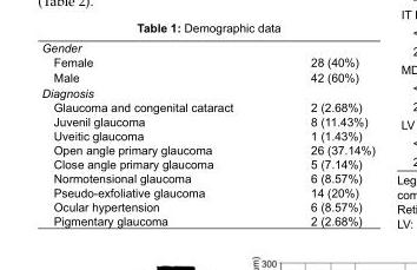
<table><tbody><tr><td colspan="2">Gender</td></tr><tr><td>Female</td><td>28 (40%)</td></tr><tr><td>Male</td><td>42 (60%)</td></tr><tr><td colspan="2">Diagnosis</td></tr><tr><td>Glaucoma and congenital cataract</td><td>2 (2.68%)</td></tr><tr><td>Juvenil glaucoma</td><td>8 (11.43%)</td></tr><tr><td>Uveitic glaucoma</td><td>1 (1.43%)</td></tr><tr><td>Open angle primary glaucoma</td><td>26 (37.14%)</td></tr><tr><td>Close angle primary glaucoma</td><td>5 (7.14%)</td></tr><tr><td>Normotensional glaucoma</td><td>6 (8.57%)</td></tr><tr><td>Pseudo-exfoliative glaucoma</td><td>14 (20%)</td></tr><tr><td>Ocular hypertension</td><td>6 (8.57%)</td></tr><tr><td>Pigmentary glaucoma</td><td>2 (2.68%)</td></tr></tbody></table>